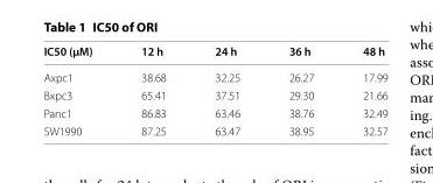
<table><thead><tr><td>IC50 (μM)</td><td>12 h</td><td>24 h</td><td>36 h</td><td>48 h</td></tr></thead><tbody><tr><td>Axpc1</td><td>38.68</td><td>32.25</td><td>26.27</td><td>17.99</td></tr><tr><td>Bxpc3</td><td>65.41</td><td>37.51</td><td>29.30</td><td>21.66</td></tr><tr><td>Panc1</td><td>86.83</td><td>63.46</td><td>38.76</td><td>32.49</td></tr><tr><td>SW1990</td><td>87.25</td><td>63.47</td><td>38.95</td><td>32.57</td></tr></tbody></table>